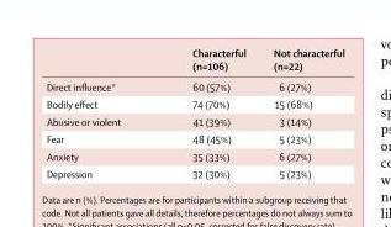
<table><thead><tr><td></td><td>Characterful (n=106)</td><td>Not characterful (n=22)</td></tr></thead><tbody><tr><td>Direct infl uence*</td><td>60 (57%)</td><td>6 (27%)</td></tr><tr><td>Bodily eff ect</td><td>74 (70%)</td><td>15 (68%)</td></tr><tr><td>Abusive or violent</td><td>41 (39%)</td><td>3 (14%)</td></tr><tr><td>Fear</td><td>48 (45%)</td><td>5 (23%)</td></tr><tr><td>Anxiety</td><td>35 (33%)</td><td>6 (27%)</td></tr><tr><td>Depression</td><td>32 (30%)</td><td>5 (23%)</td></tr></tbody></table>